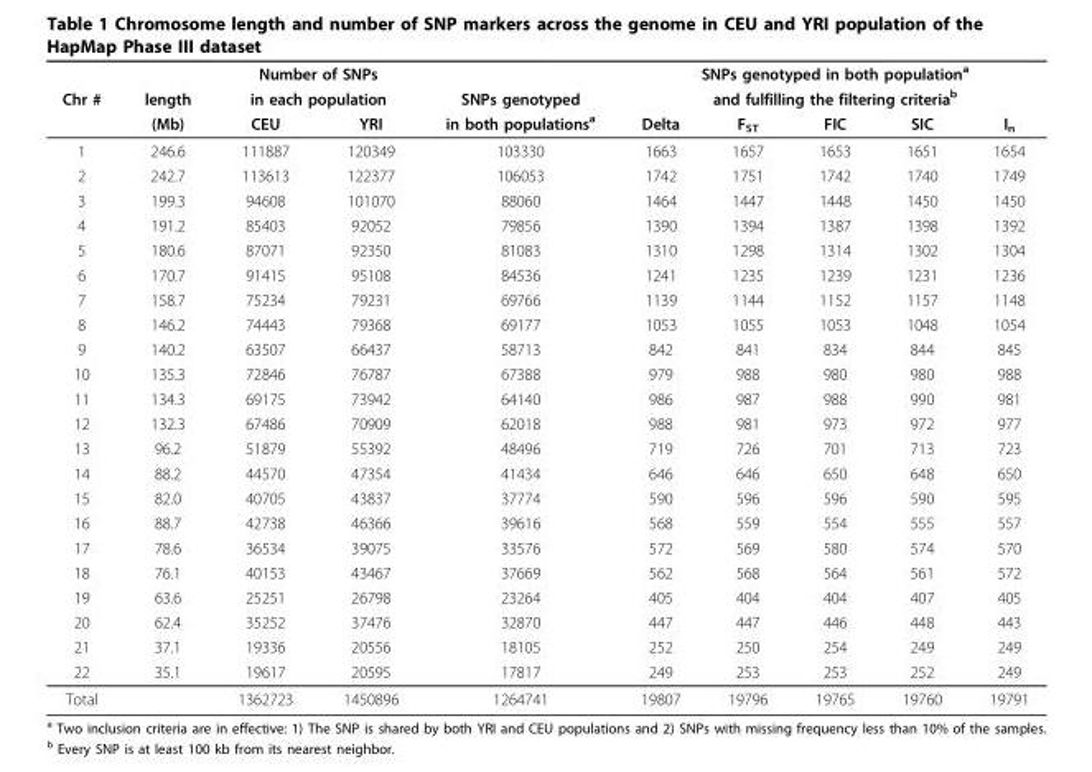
<table><thead><tr><td rowspan="3">Chr #</td><td rowspan="3">length (Mb)</td><td rowspan="2" colspan="2">Number of SNPs in each population</td><td rowspan="3">SNPs genotyped in both populations<sup>a</sup></td><td rowspan="2" colspan="5">SNPs genotyped in both population<sup>a</sup> and fulfilling the filtering criteria<sup>b</sup></td></tr><tr></tr><tr><td>CEU</td><td>YRI</td><td>Delta</td><td>F<sub>ST</sub></td><td>FIC</td><td>SIC</td><td>I<sub>n</sub></td></tr></thead><tbody><tr><td>1</td><td>246.6</td><td>111887</td><td>120349</td><td>103330</td><td>1663</td><td>1657</td><td>1653</td><td>1651</td><td>1654</td></tr><tr><td>2</td><td>242.7</td><td>113613</td><td>122377</td><td>106053</td><td>1742</td><td>1751</td><td>1742</td><td>1740</td><td>1749</td></tr><tr><td>3</td><td>199.3</td><td>94608</td><td>101070</td><td>88060</td><td>1464</td><td>1447</td><td>1448</td><td>1450</td><td>1450</td></tr><tr><td>4</td><td>191.2</td><td>85403</td><td>92052</td><td>79856</td><td>1390</td><td>1394</td><td>1387</td><td>1398</td><td>1392</td></tr><tr><td>5</td><td>180.6</td><td>87071</td><td>92350</td><td>81083</td><td>1310</td><td>1298</td><td>1314</td><td>1302</td><td>1304</td></tr><tr><td>6</td><td>170.7</td><td>91415</td><td>95108</td><td>84536</td><td>1241</td><td>1235</td><td>1239</td><td>1231</td><td>1236</td></tr><tr><td>7</td><td>158.7</td><td>75234</td><td>79231</td><td>69766</td><td>1139</td><td>1144</td><td>1152</td><td>1157</td><td>1148</td></tr><tr><td>8</td><td>146.2</td><td>74443</td><td>79368</td><td>69177</td><td>1053</td><td>1055</td><td>1053</td><td>1048</td><td>1054</td></tr><tr><td>9</td><td>140.2</td><td>63507</td><td>66437</td><td>58713</td><td>842</td><td>841</td><td>834</td><td>844</td><td>845</td></tr><tr><td>10</td><td>135.3</td><td>72846</td><td>76787</td><td>67388</td><td>979</td><td>988</td><td>980</td><td>980</td><td>988</td></tr><tr><td>11</td><td>134.3</td><td>69175</td><td>73942</td><td>64140</td><td>986</td><td>987</td><td>988</td><td>990</td><td>981</td></tr><tr><td>12</td><td>132.3</td><td>67486</td><td>70909</td><td>62018</td><td>988</td><td>981</td><td>973</td><td>972</td><td>977</td></tr><tr><td>13</td><td>96.2</td><td>51879</td><td>55392</td><td>48496</td><td>719</td><td>726</td><td>701</td><td>713</td><td>723</td></tr><tr><td>14</td><td>88.2</td><td>44570</td><td>47354</td><td>41434</td><td>646</td><td>646</td><td>650</td><td>648</td><td>650</td></tr><tr><td>15</td><td>82.0</td><td>40705</td><td>43837</td><td>37774</td><td>590</td><td>596</td><td>596</td><td>590</td><td>595</td></tr><tr><td>16</td><td>88.7</td><td>42738</td><td>46366</td><td>39616</td><td>568</td><td>559</td><td>554</td><td>555</td><td>557</td></tr><tr><td>17</td><td>78.6</td><td>36534</td><td>39075</td><td>33576</td><td>572</td><td>569</td><td>580</td><td>574</td><td>570</td></tr><tr><td>18</td><td>76.1</td><td>40153</td><td>43467</td><td>37669</td><td>562</td><td>568</td><td>564</td><td>561</td><td>572</td></tr><tr><td>19</td><td>63.6</td><td>25251</td><td>26798</td><td>23264</td><td>405</td><td>404</td><td>404</td><td>407</td><td>405</td></tr><tr><td>20</td><td>62.4</td><td>35252</td><td>37476</td><td>32870</td><td>447</td><td>447</td><td>446</td><td>448</td><td>443</td></tr><tr><td>21</td><td>37.1</td><td>19336</td><td>20556</td><td>18105</td><td>252</td><td>250</td><td>254</td><td>249</td><td>249</td></tr><tr><td>22</td><td>35.1</td><td>19617</td><td>20595</td><td>17817</td><td>249</td><td>253</td><td>253</td><td>252</td><td>249</td></tr><tr><td>Total</td><td></td><td>1362723</td><td>1450896</td><td>1264741</td><td>19807</td><td>19796</td><td>19765</td><td>19760</td><td>19791</td></tr></tbody></table>